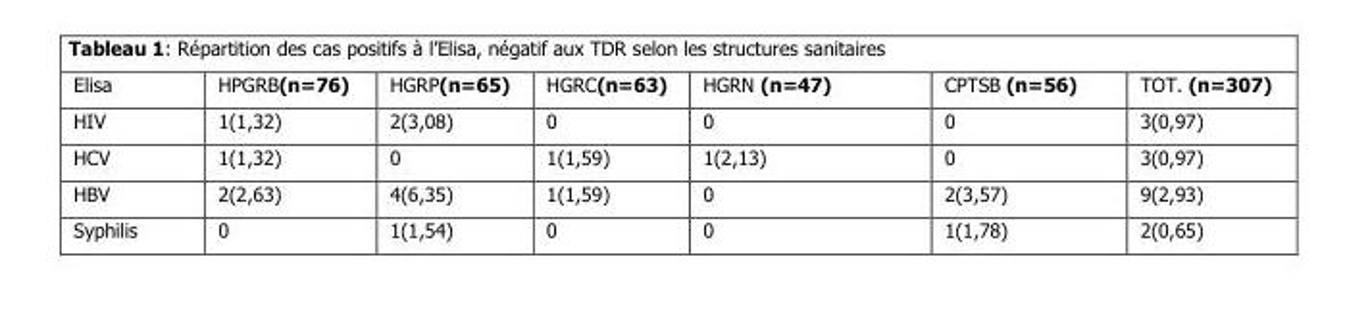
<table><thead><tr><td>Elisa</td><td>HPGRB(n=76)</td><td>HGRP(n=65)</td><td>HGRC(n=63)</td><td>HGRN (n=47)</td><td>CPTSB (n=56)</td><td>TOT. (n=307)</td></tr></thead><tbody><tr><td>HIV</td><td>1(1,32)</td><td>2(3,08)</td><td>0</td><td>0</td><td>0</td><td>3(0,97)</td></tr><tr><td>HCV</td><td>1(1,32)</td><td>0</td><td>1(1,59)</td><td>1(2,13)</td><td>0</td><td>3(0,97)</td></tr><tr><td>HBV</td><td>2(2,63)</td><td>4(6,35)</td><td>1(1,59)</td><td>0</td><td>2(3,57)</td><td>9(2,93)</td></tr><tr><td>Syphilis</td><td>0</td><td>1(1,54)</td><td>0</td><td>0</td><td>1(1,78)</td><td>2(0,65)</td></tr></tbody></table>